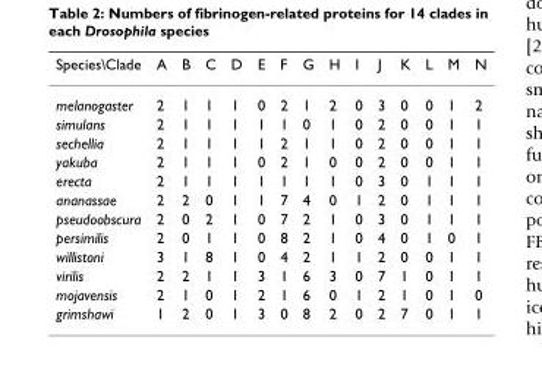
<table><thead><tr><td>Species\Clade</td><td>A</td><td>B</td><td>C</td><td>D</td><td>E</td><td>F</td><td>G</td><td>H</td><td>I</td><td>J</td><td>K</td><td>L</td><td>M</td><td>N</td></tr></thead><tbody><tr><td>melanogaster</td><td>2</td><td>1</td><td>1</td><td>1</td><td>0</td><td>2</td><td>1</td><td>2</td><td>0</td><td>3</td><td>0</td><td>0</td><td>1</td><td>2</td></tr><tr><td>simulans</td><td>2</td><td>1</td><td>1</td><td>1</td><td>1</td><td>1</td><td>0</td><td>1</td><td>0</td><td>2</td><td>0</td><td>0</td><td>1</td><td>1</td></tr><tr><td>sechellia</td><td>2</td><td>1</td><td>1</td><td>1</td><td>1</td><td>2</td><td>1</td><td>1</td><td>0</td><td>2</td><td>0</td><td>0</td><td>1</td><td>1</td></tr><tr><td>yakuba</td><td>2</td><td>1</td><td>1</td><td>1</td><td>0</td><td>2</td><td>1</td><td>0</td><td>0</td><td>2</td><td>0</td><td>0</td><td>1</td><td>1</td></tr><tr><td>erecta</td><td>2</td><td>1</td><td>1</td><td>1</td><td>1</td><td>1</td><td>1</td><td>1</td><td>0</td><td>3</td><td>0</td><td>1</td><td>1</td><td>1</td></tr><tr><td>ananassae</td><td>2</td><td>2</td><td>0</td><td>1</td><td>1</td><td>7</td><td>4</td><td>0</td><td>1</td><td>2</td><td>0</td><td>1</td><td>1</td><td>1</td></tr><tr><td>pseudoobscura</td><td>2</td><td>0</td><td>2</td><td>1</td><td>0</td><td>7</td><td>2</td><td>1</td><td>0</td><td>3</td><td>0</td><td>1</td><td>1</td><td>1</td></tr><tr><td>persimilis</td><td>2</td><td>0</td><td>1</td><td>1</td><td>0</td><td>8</td><td>2</td><td>1</td><td>0</td><td>4</td><td>0</td><td>1</td><td>0</td><td>1</td></tr><tr><td>willistoni</td><td>3</td><td>1</td><td>8</td><td>1</td><td>0</td><td>4</td><td>2</td><td>1</td><td>1</td><td>2</td><td>0</td><td>0</td><td>1</td><td>1</td></tr><tr><td>virilis</td><td>2</td><td>2</td><td>1</td><td>1</td><td>3</td><td>1</td><td>6</td><td>3</td><td>0</td><td>7</td><td>1</td><td>0</td><td>1</td><td>1</td></tr><tr><td>mojavensis</td><td>2</td><td>1</td><td>0</td><td>1</td><td>2</td><td>1</td><td>6</td><td>0</td><td>1</td><td>2</td><td>1</td><td>0</td><td>1</td><td>0</td></tr><tr><td>grimshawi</td><td>1</td><td>2</td><td>0</td><td>1</td><td>3</td><td>0</td><td>8</td><td>2</td><td>0</td><td>2</td><td>7</td><td>0</td><td>1</td><td>1</td></tr></tbody></table>